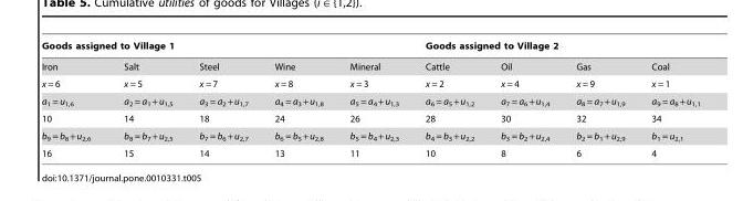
<table><thead><tr><td colspan="5">Goods assigned to Village 1</td><td colspan="4">Goods assigned to Village 2</td></tr><tr><td>Iron</td><td>Salt</td><td>Steel</td><td>Wine</td><td>Mineral</td><td>Cattle</td><td>Oil</td><td>Gas</td><td>Coal</td></tr></thead><tbody><tr><td>x = 6</td><td>x = 5</td><td>x = 7</td><td>x = 8</td><td>x = 3</td><td>x = 2</td><td>x = 4</td><td>x = 9</td><td>x = 1</td></tr><tr><td>a<sub>1</sub> = u<sub>1,6</sub></td><td>a<sub>2</sub> = a<sub>1</sub>+u<sub>1,5</sub></td><td>a<sub>3</sub> = a<sub>2</sub>+u<sub>1,7</sub></td><td>a<sub>4</sub> = a<sub>3</sub>+u<sub>1,8</sub></td><td>a<sub>5</sub> = a<sub>4</sub>+u<sub>1,3</sub></td><td>a<sub>6</sub> = a<sub>5</sub>+u<sub>1,2</sub></td><td>a<sub>7</sub> = a<sub>6</sub>+u<sub>1,4</sub></td><td>a<sub>8</sub> = a<sub>7</sub>+u<sub>1,9</sub></td><td>a<sub>9</sub> = a<sub>8</sub>+u<sub>1,1</sub></td></tr><tr><td>10</td><td>14</td><td>18</td><td>24</td><td>26</td><td>28</td><td>30</td><td>32</td><td>34</td></tr><tr><td>b<sub>9</sub> = b<sub>8</sub>+u<sub>2,6</sub></td><td>b<sub>8</sub> = b<sub>7</sub>+u<sub>2,5</sub></td><td>b<sub>7</sub> = b<sub>6</sub>+u<sub>2,7</sub></td><td>b<sub>6</sub> = b<sub>5</sub>+u<sub>2,8</sub></td><td>b<sub>5</sub> = b<sub>4</sub>+u<sub>2,3</sub></td><td>b<sub>4</sub> = b<sub>3</sub>+u<sub>2,2</sub></td><td>b<sub>3</sub> = b<sub>2</sub>+u<sub>2,4</sub></td><td>b<sub>2</sub> = b<sub>1</sub>+u<sub>2,9</sub></td><td>b<sub>1</sub> = u<sub>2,1</sub></td></tr><tr><td>16</td><td>15</td><td>14</td><td>13</td><td>11</td><td>10</td><td>8</td><td>6</td><td>4</td></tr></tbody></table>